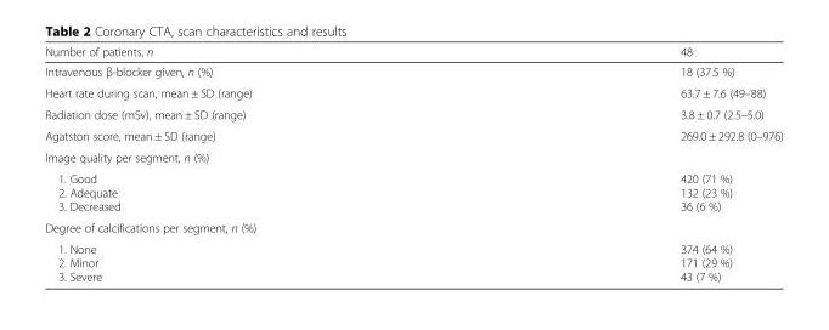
<table><thead><tr><td>Number of patients, n</td><td>48</td></tr></thead><tbody><tr><td>Intravenous β-blocker given, n (%)</td><td>18 (37.5 %)</td></tr><tr><td>Heart rate during scan, mean ± SD (range)</td><td>63.7 ± 7.6 (49–88)</td></tr><tr><td>Radiation dose (mSv), mean ± SD (range)</td><td>3.8 ± 0.7 (2.5–5.0)</td></tr><tr><td>Agatston score, mean ± SD (range)</td><td>269.0 ± 292.8 (0–976)</td></tr><tr><td colspan="2">Image quality per segment, n (%)</td></tr><tr><td>1. Good 2. Adequate 3. Decreased</td><td>420 (71 %) 132 (23 %) 36 (6 %)</td></tr><tr><td colspan="2">Degree of calcifications per segment, n (%)</td></tr><tr><td>1. None 2. Minor 3. Severe</td><td>374 (64 %) 171 (29 %) 43 (7 %)</td></tr></tbody></table>